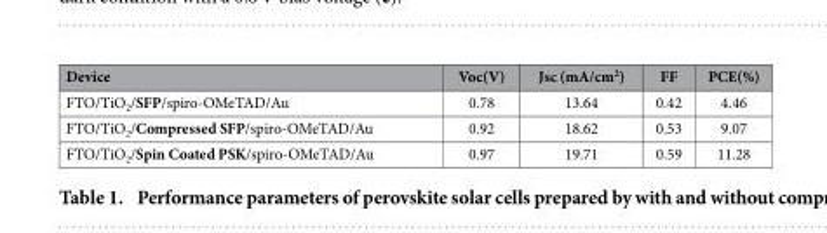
<table><thead><tr><td>Device</td><td>Voc(V)</td><td>Jsc (mA/cm<sup>2</sup>)</td><td>FF</td><td>PCE(%)</td></tr></thead><tbody><tr><td>FTO/TiO<sub>2</sub>/SFP/spiro-OMeTAD/Au</td><td>0.78</td><td>13.64</td><td>0.42</td><td>4.46</td></tr><tr><td>FTO/TiO<sub>2</sub>/Compressed SFP/spiro-OMeTAD/Au</td><td>0.92</td><td>18.62</td><td>0.53</td><td>9.07</td></tr><tr><td>FTO/TiO<sub>2</sub>/Spin Coated PSK/spiro-OMeTAD/Au</td><td>0.97</td><td>19.71</td><td>0.59</td><td>11.28</td></tr></tbody></table>